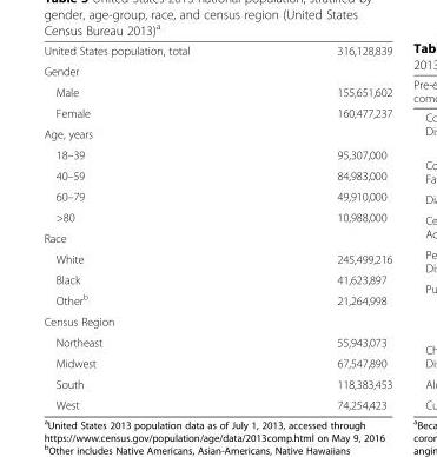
<table><tbody><tr><td>United States population, total</td><td>316,128,839</td></tr><tr><td colspan="2">Gender</td></tr><tr><td>Male</td><td>155,651,602</td></tr><tr><td>Female</td><td>160,477,237</td></tr><tr><td colspan="2">Age, years</td></tr><tr><td>18–39</td><td>95,307,000</td></tr><tr><td>40–59</td><td>84,983,000</td></tr><tr><td>60–79</td><td>49,910,000</td></tr><tr><td>&gt;80</td><td>10,988,000</td></tr><tr><td colspan="2">Race</td></tr><tr><td>White</td><td>245,499,216</td></tr><tr><td>Black</td><td>41,623,897</td></tr><tr><td>Other<sup>b</sup></td><td>21,264,998</td></tr><tr><td colspan="2">Census Region</td></tr><tr><td>Northeast</td><td>55,943,073</td></tr><tr><td>Midwest</td><td>67,547,890</td></tr><tr><td>South</td><td>118,383,453</td></tr><tr><td>West</td><td>74,254,423</td></tr></tbody></table>